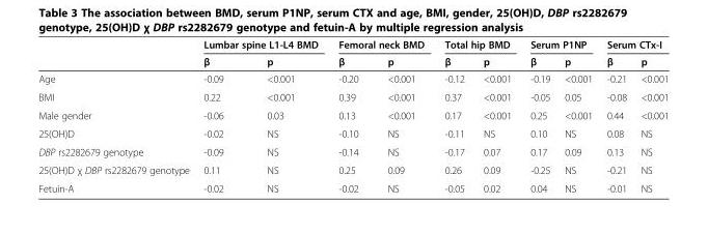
<table><thead><tr><td rowspan="2"></td><td colspan="2">Lumbar spine L1-L4 BMD</td><td colspan="2">Femoral neck BMD</td><td colspan="2">Total hip BMD</td><td colspan="2">Serum P1NP</td><td colspan="2">Serum CTx-I</td></tr><tr><td>β</td><td>p</td><td>β</td><td>p</td><td>β</td><td>p</td><td>β</td><td>p</td><td>β</td><td>p</td></tr></thead><tbody><tr><td>Age</td><td>-0.09</td><td>&lt;0.001</td><td>-0.20</td><td>&lt;0.001</td><td>-0.12</td><td>&lt;0.001</td><td>-0.19</td><td>&lt;0.001</td><td>-0.21</td><td>&lt;0.001</td></tr><tr><td>BMI</td><td>0.22</td><td>&lt;0.001</td><td>0.39</td><td>&lt;0.001</td><td>0.37</td><td>&lt;0.001</td><td>-0.05</td><td>0.05</td><td>-0.08</td><td>&lt;0.001</td></tr><tr><td>Male gender</td><td>-0.06</td><td>0.03</td><td>0.13</td><td>&lt;0.001</td><td>0.17</td><td>&lt;0.001</td><td>0.25</td><td>&lt;0.001</td><td>0.44</td><td>&lt;0.001</td></tr><tr><td>25(OH)D</td><td>-0.02</td><td>NS</td><td>-0.10</td><td>NS</td><td>-0.11</td><td>NS</td><td>0.10</td><td>NS</td><td>0.08</td><td>NS</td></tr><tr><td>DBP rs2282679 genotype</td><td>-0.09</td><td>NS</td><td>-0.14</td><td>NS</td><td>-0.17</td><td>0.07</td><td>0.17</td><td>0.09</td><td>0.13</td><td>NS</td></tr><tr><td>25(OH)D χ DBP rs2282679 genotype</td><td>0.11</td><td>NS</td><td>0.25</td><td>0.09</td><td>0.26</td><td>0.09</td><td>-0.25</td><td>NS</td><td>-0.21</td><td>NS</td></tr><tr><td>Fetuin-A</td><td>-0.02</td><td>NS</td><td>-0.02</td><td>NS</td><td>-0.05</td><td>0.02</td><td>0.04</td><td>NS</td><td>-0.01</td><td>NS</td></tr></tbody></table>